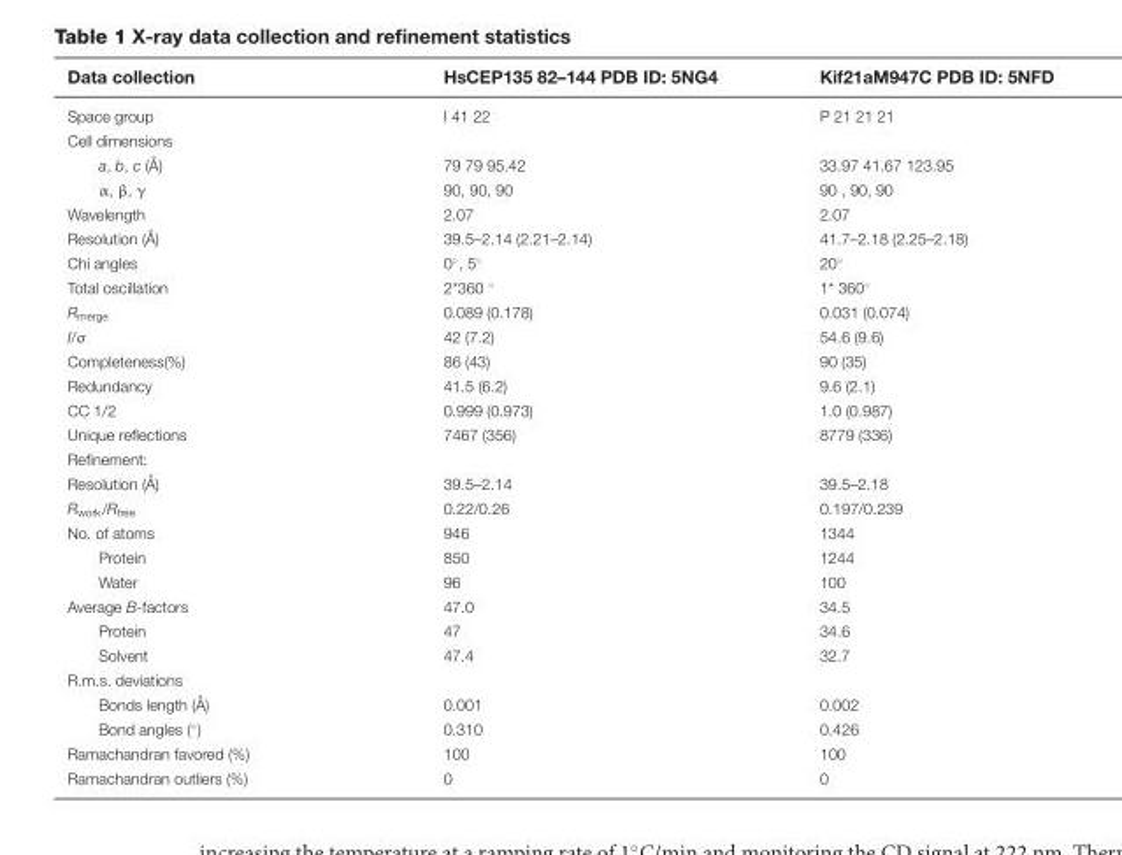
<table><thead><tr><td>Data collection</td><td>HsCEP135 82–144 PDB ID: 5NG4</td><td>Kif21aM947C PDB ID: 5NFD</td></tr></thead><tbody><tr><td>Space group</td><td>I 41 22</td><td>P 21 21 21</td></tr><tr><td colspan="3">Cell dimensions</td></tr><tr><td>a, b, c ( ˚A)</td><td>79 79 95.42</td><td>33.97 41.67 123.95</td></tr><tr><td>α, β, γ</td><td>90, 90, 90</td><td>90 , 90, 90</td></tr><tr><td>Wavelength</td><td>2.07</td><td>2.07</td></tr><tr><td>Resolution ( ˚A)</td><td>39.5–2.14 (2.21–2.14)</td><td>41.7–2.18 (2.25–2.18)</td></tr><tr><td>Chi angles</td><td>0◦, 5◦</td><td>20◦</td></tr><tr><td>Total oscillation</td><td>2*360 ◦</td><td>1* 360◦</td></tr><tr><td>R<sub>merge</sub></td><td>0.089 (0.178)</td><td>0.031 (0.074)</td></tr><tr><td>I/σ</td><td>42 (7.2)</td><td>54.6 (9.6)</td></tr><tr><td>Completeness(%)</td><td>86 (43)</td><td>90 (35)</td></tr><tr><td>Redundancy</td><td>41.5 (6.2)</td><td>9.6 (2.1)</td></tr><tr><td>CC 1/2</td><td>0.999 (0.973)</td><td>1.0 (0.987)</td></tr><tr><td>Unique reflections</td><td>7467 (356)</td><td>8779 (336)</td></tr><tr><td colspan="3">Refinement:</td></tr><tr><td>Resolution ( ˚A)</td><td>39.5–2.14</td><td>39.5–2.18</td></tr><tr><td>R<sub>work</sub>/R<sub>free</sub></td><td>0.22/0.26</td><td>0.197/0.239</td></tr><tr><td>No. of atoms</td><td>946</td><td>1344</td></tr><tr><td>Protein</td><td>850</td><td>1244</td></tr><tr><td>Water</td><td>96</td><td>100</td></tr><tr><td>Average B-factors</td><td>47.0</td><td>34.5</td></tr><tr><td>Protein</td><td>47</td><td>34.6</td></tr><tr><td>Solvent</td><td>47.4</td><td>32.7</td></tr><tr><td colspan="3">R.m.s. deviations</td></tr><tr><td>Bonds length ( ˚A)</td><td>0.001</td><td>0.002</td></tr><tr><td>Bond angles (◦)</td><td>0.310</td><td>0.426</td></tr><tr><td>Ramachandran favored (%)</td><td>100</td><td>100</td></tr><tr><td>Ramachandran outliers (%)</td><td>0</td><td>0</td></tr></tbody></table>